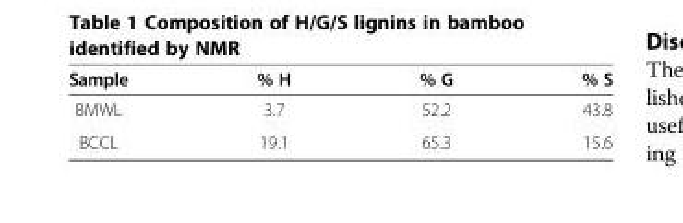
<table><thead><tr><td>Sample</td><td>% H</td><td>% G</td><td>% S</td></tr></thead><tbody><tr><td>BMWL</td><td>3.7</td><td>52.2</td><td>43.8</td></tr><tr><td>BCCL</td><td>19.1</td><td>65.3</td><td>15.6</td></tr></tbody></table>